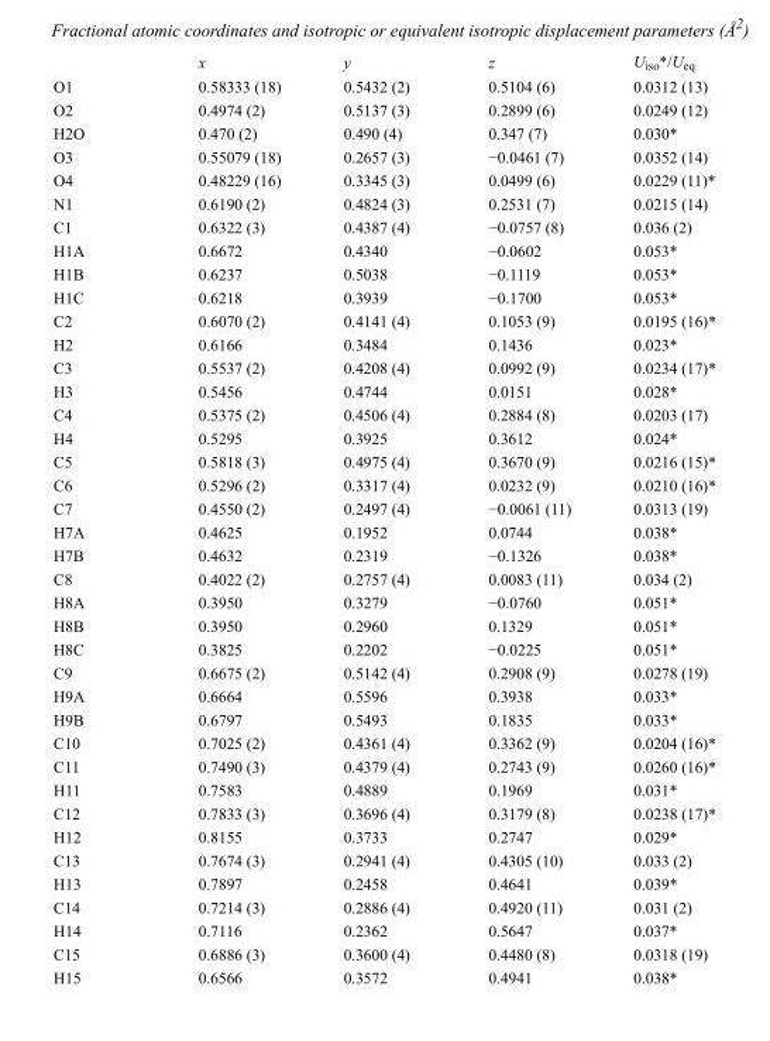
<table><thead><tr><td></td><td>x</td><td>y</td><td>z</td><td>U<sub>iso</sub>*/U<sub>eq</sub></td></tr></thead><tbody><tr><td>O1</td><td>0.58333 (18)</td><td>0.5432 (2)</td><td>0.5104 (6)</td><td>0.0312 (13)</td></tr><tr><td>O2</td><td>0.4974 (2)</td><td>0.5137 (3)</td><td>0.2899 (6)</td><td>0.0249 (12)</td></tr><tr><td>H2O</td><td>0.470 (2)</td><td>0.490 (4)</td><td>0.347 (7)</td><td>0.030*</td></tr><tr><td>O3</td><td>0.55079 (18)</td><td>0.2657 (3)</td><td>−0.0461 (7)</td><td>0.0352 (14)</td></tr><tr><td>O4</td><td>0.48229 (16)</td><td>0.3345 (3)</td><td>0.0499 (6)</td><td>0.0229 (11)*</td></tr><tr><td>N1</td><td>0.6190 (2)</td><td>0.4824 (3)</td><td>0.2531 (7)</td><td>0.0215 (14)</td></tr><tr><td>C1</td><td>0.6322 (3)</td><td>0.4387 (4)</td><td>−0.0757 (8)</td><td>0.036 (2)</td></tr><tr><td>H1A</td><td>0.6672</td><td>0.4340</td><td>−0.0602</td><td>0.053*</td></tr><tr><td>H1B</td><td>0.6237</td><td>0.5038</td><td>−0.1119</td><td>0.053*</td></tr><tr><td>H1C</td><td>0.6218</td><td>0.3939</td><td>−0.1700</td><td>0.053*</td></tr><tr><td>C2</td><td>0.6070 (2)</td><td>0.4141 (4)</td><td>0.1053 (9)</td><td>0.0195 (16)*</td></tr><tr><td>H2</td><td>0.6166</td><td>0.3484</td><td>0.1436</td><td>0.023*</td></tr><tr><td>C3</td><td>0.5537 (2)</td><td>0.4208 (4)</td><td>0.0992 (9)</td><td>0.0234 (17)*</td></tr><tr><td>H3</td><td>0.5456</td><td>0.4744</td><td>0.0151</td><td>0.028*</td></tr><tr><td>C4</td><td>0.5375 (2)</td><td>0.4506 (4)</td><td>0.2884 (8)</td><td>0.0203 (17)</td></tr><tr><td>H4</td><td>0.5295</td><td>0.3925</td><td>0.3612</td><td>0.024*</td></tr><tr><td>C5</td><td>0.5818 (3)</td><td>0.4975 (4)</td><td>0.3670 (9)</td><td>0.0216 (15)*</td></tr><tr><td>C6</td><td>0.5296 (2)</td><td>0.3317 (4)</td><td>0.0232 (9)</td><td>0.0210 (16)*</td></tr><tr><td>C7</td><td>0.4550 (2)</td><td>0.2497 (4)</td><td>−0.0061 (11)</td><td>0.0313 (19)</td></tr><tr><td>H7A</td><td>0.4625</td><td>0.1952</td><td>0.0744</td><td>0.038*</td></tr><tr><td>H7B</td><td>0.4632</td><td>0.2319</td><td>−0.1326</td><td>0.038*</td></tr><tr><td>C8</td><td>0.4022 (2)</td><td>0.2757 (4)</td><td>0.0083 (11)</td><td>0.034 (2)</td></tr><tr><td>H8A</td><td>0.3950</td><td>0.3279</td><td>−0.0760</td><td>0.051*</td></tr><tr><td>H8B</td><td>0.3950</td><td>0.2960</td><td>0.1329</td><td>0.051*</td></tr><tr><td>H8C</td><td>0.3825</td><td>0.2202</td><td>−0.0225</td><td>0.051*</td></tr><tr><td>C9</td><td>0.6675 (2)</td><td>0.5142 (4)</td><td>0.2908 (9)</td><td>0.0278 (19)</td></tr><tr><td>H9A</td><td>0.6664</td><td>0.5596</td><td>0.3938</td><td>0.033*</td></tr><tr><td>H9B</td><td>0.6797</td><td>0.5493</td><td>0.1835</td><td>0.033*</td></tr><tr><td>C10</td><td>0.7025 (2)</td><td>0.4361 (4)</td><td>0.3362 (9)</td><td>0.0204 (16)*</td></tr><tr><td>C11</td><td>0.7490 (3)</td><td>0.4379 (4)</td><td>0.2743 (9)</td><td>0.0260 (16)*</td></tr><tr><td>H11</td><td>0.7583</td><td>0.4889</td><td>0.1969</td><td>0.031*</td></tr><tr><td>C12</td><td>0.7833 (3)</td><td>0.3696 (4)</td><td>0.3179 (8)</td><td>0.0238 (17)*</td></tr><tr><td>H12</td><td>0.8155</td><td>0.3733</td><td>0.2747</td><td>0.029*</td></tr><tr><td>C13</td><td>0.7674 (3)</td><td>0.2941 (4)</td><td>0.4305 (10)</td><td>0.033 (2)</td></tr><tr><td>H13</td><td>0.7897</td><td>0.2458</td><td>0.4641</td><td>0.039*</td></tr><tr><td>C14</td><td>0.7214 (3)</td><td>0.2886 (4)</td><td>0.4920 (11)</td><td>0.031 (2)</td></tr><tr><td>H14</td><td>0.7116</td><td>0.2362</td><td>0.5647</td><td>0.037*</td></tr><tr><td>C15</td><td>0.6886 (3)</td><td>0.3600 (4)</td><td>0.4480 (8)</td><td>0.0318 (19)</td></tr><tr><td>H15</td><td>0.6566</td><td>0.3572</td><td>0.4941</td><td>0.038*</td></tr></tbody></table>